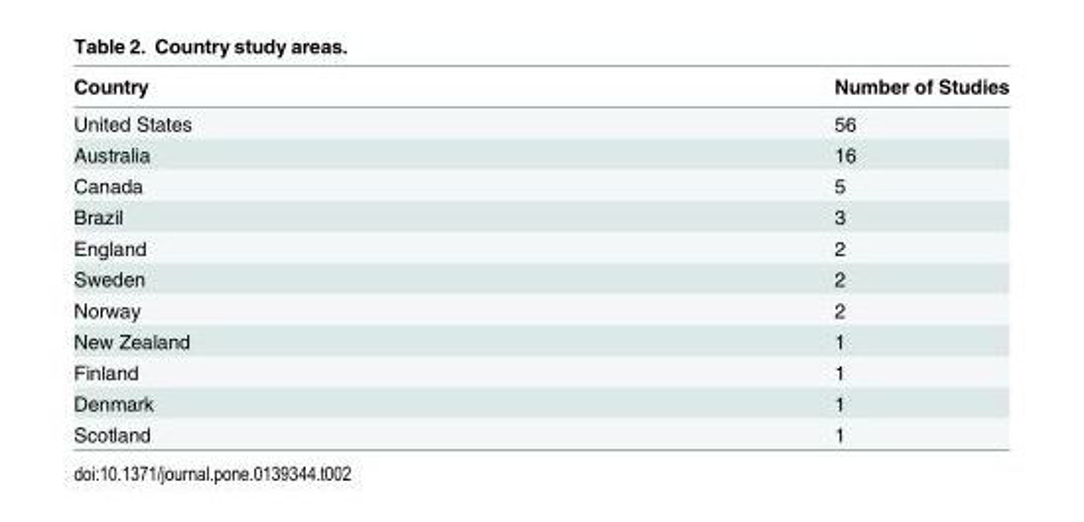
<table><thead><tr><td>Country</td><td>Number of Studies</td></tr></thead><tbody><tr><td>United States</td><td>56</td></tr><tr><td>Australia</td><td>16</td></tr><tr><td>Canada</td><td>5</td></tr><tr><td>Brazil</td><td>3</td></tr><tr><td>England</td><td>2</td></tr><tr><td>Sweden</td><td>2</td></tr><tr><td>Norway</td><td>2</td></tr><tr><td>New Zealand</td><td>1</td></tr><tr><td>Finland</td><td>1</td></tr><tr><td>Denmark</td><td>1</td></tr><tr><td>Scotland</td><td>1</td></tr></tbody></table>